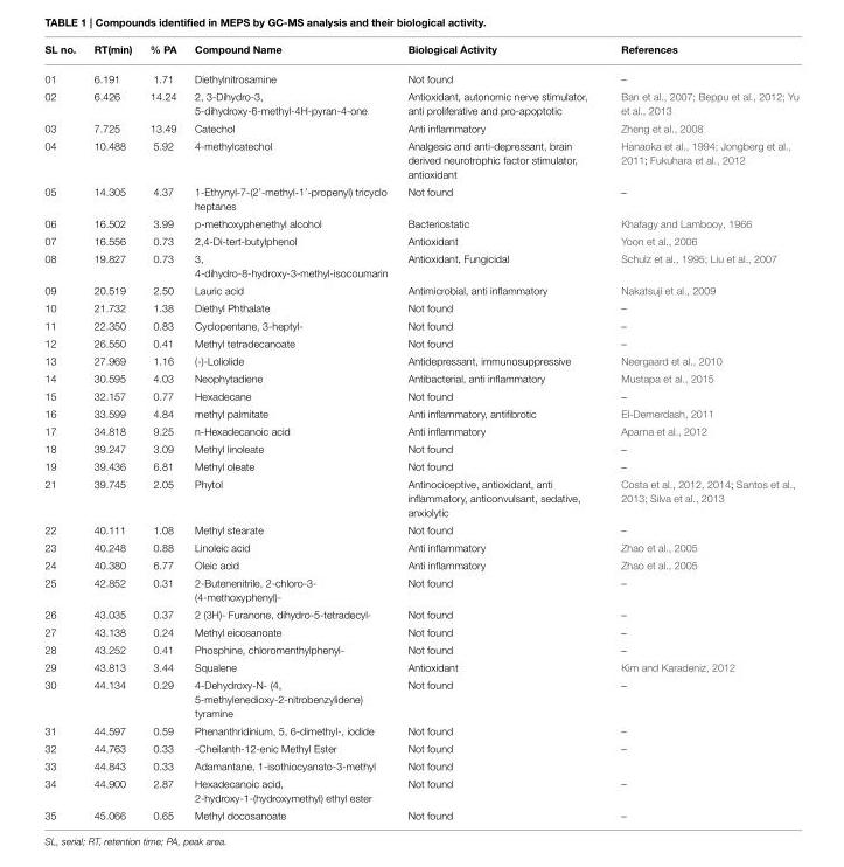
<table><thead><tr><td>SL no.</td><td>RT(min)</td><td>% PA</td><td>Compound Name</td><td>Biological Activity</td><td>References</td></tr></thead><tbody><tr><td>01</td><td>6.191</td><td>1.71</td><td>Diethylnitrosamine</td><td>Not found</td><td>–</td></tr><tr><td>02</td><td>6.426</td><td>14.24</td><td>2, 3-Dihydro-3, 5-dihydroxy-6-methyl-4H-pyran-4-one</td><td>Antioxidant, autonomic nerve stimulator, anti proliferative and pro-apoptotic</td><td>Ban et al., 2007; Beppu et al., 2012; Yu et al., 2013</td></tr><tr><td>03</td><td>7.725</td><td>13.49</td><td>Catechol</td><td>Anti inflammatory</td><td>Zheng et al., 2008</td></tr><tr><td>04</td><td>10.488</td><td>5.92</td><td>4-methylcatechol</td><td>Analgesic and anti-depressant, brain derived neurotrophic factor stimulator, antioxidant</td><td>Hanaoka et al., 1994; Jongberg et al., 2011; Fukuhara et al., 2012</td></tr><tr><td>05</td><td>14.305</td><td>4.37</td><td>1-Ethynyl-7-(2’-methyl-1’-propenyl) tricyclo heptanes</td><td>Not found</td><td>–</td></tr><tr><td>06</td><td>16.502</td><td>3.99</td><td>p-methoxyphenethyl alcohol</td><td>Bacteriostatic</td><td>Khafagy and Lambooy, 1966</td></tr><tr><td>07</td><td>16.556</td><td>0.73</td><td>2,4-Di-tert-butylphenol</td><td>Antioxidant</td><td>Yoon et al., 2006</td></tr><tr><td>08</td><td>19.827</td><td>0.73</td><td>3, 4-dihydro-8-hydroxy-3-methyl-isocoumarin</td><td>Antioxidant, Fungicidal</td><td>Schulz et al., 1995; Liu et al., 2007</td></tr><tr><td>09</td><td>20.519</td><td>2.50</td><td>Lauric acid</td><td>Antimicrobial, anti inflammatory</td><td>Nakatsuji et al., 2009</td></tr><tr><td>10</td><td>21.732</td><td>1.38</td><td>Diethyl Phthalate</td><td>Not found</td><td>–</td></tr><tr><td>11</td><td>22.350</td><td>0.83</td><td>Cyclopentane, 3-heptyl-</td><td>Not found</td><td>–</td></tr><tr><td>12</td><td>26.550</td><td>0.41</td><td>Methyl tetradecanoate</td><td>Not found</td><td>–</td></tr><tr><td>13</td><td>27.969</td><td>1.16</td><td>(-)-Loliolide</td><td>Antidepressant, immunosuppressive</td><td>Neergaard et al., 2010</td></tr><tr><td>14</td><td>30.595</td><td>4.03</td><td>Neophytadiene</td><td>Antibacterial, anti inflammatory</td><td>Mustapa et al., 2015</td></tr><tr><td>15</td><td>32.157</td><td>0.77</td><td>Hexadecane</td><td>Not found</td><td>–</td></tr><tr><td>16</td><td>33.599</td><td>4.84</td><td>methyl palmitate</td><td>Anti inflammatory, antifibrotic</td><td>El-Demerdash, 2011</td></tr><tr><td>17</td><td>34.818</td><td>9.25</td><td>n-Hexadecanoic acid</td><td>Anti inflammatory</td><td>Aparna et al., 2012</td></tr><tr><td>18</td><td>39.247</td><td>3.09</td><td>Methyl linoleate</td><td>Not found</td><td>–</td></tr><tr><td>19</td><td>39.436</td><td>6.81</td><td>Methyl oleate</td><td>Not found</td><td>–</td></tr><tr><td>21</td><td>39.745</td><td>2.05</td><td>Phytol</td><td>Antinociceptive, antioxidant, anti inflammatory, anticonvulsant, sedative, anxiolytic</td><td>Costa et al., 2012, 2014; Santos et al., 2013; Silva et al., 2013</td></tr><tr><td>22</td><td>40.111</td><td>1.08</td><td>Methyl stearate</td><td>Not found</td><td>–</td></tr><tr><td>23</td><td>40.248</td><td>0.88</td><td>Linoleic acid</td><td>Anti inflammatory</td><td>Zhao et al., 2005</td></tr><tr><td>24</td><td>40.380</td><td>6.77</td><td>Oleic acid</td><td>Anti inflammatory</td><td>Zhao et al., 2005</td></tr><tr><td>25</td><td>42.852</td><td>0.31</td><td>2-Butenenitrile, 2-chloro-3- (4-methoxyphenyl)-</td><td>Not found</td><td>–</td></tr><tr><td>26</td><td>43.035</td><td>0.37</td><td>2 (3H)- Furanone, dihydro-5-tetradecyl-</td><td>Not found</td><td>–</td></tr><tr><td>27</td><td>43.138</td><td>0.24</td><td>Methyl eicosanoate</td><td>Not found</td><td>–</td></tr><tr><td>28</td><td>43.252</td><td>0.41</td><td>Phosphine, chloromenthylphenyl-</td><td>Not found</td><td>–</td></tr><tr><td>29</td><td>43.813</td><td>3.44</td><td>Squalene</td><td>Antioxidant</td><td>Kim and Karadeniz, 2012</td></tr><tr><td>30</td><td>44.134</td><td>0.29</td><td>4-Dehydroxy-N- (4, 5-methylenedioxy-2-nitrobenzylidene) tyramine</td><td>Not found</td><td>–</td></tr><tr><td>31</td><td>44.597</td><td>0.59</td><td>Phenanthridinium, 5, 6-dimethyl-, iodide</td><td>Not found</td><td>–</td></tr><tr><td>32</td><td>44.763</td><td>0.33</td><td>-Cheilanth-12-enic Methyl Ester</td><td>Not found</td><td>–</td></tr><tr><td>33</td><td>44.843</td><td>0.33</td><td>Adamantane, 1-isothiocyanato-3-methyl</td><td>Not found</td><td></td></tr><tr><td>34</td><td>44.900</td><td>2.87</td><td>Hexadecanoic acid, 2-hydroxy-1-(hydroxymethyl) ethyl ester</td><td>Not found</td><td>–</td></tr><tr><td>35</td><td>45.066</td><td>0.65</td><td>Methyl docosanoate</td><td>Not found</td><td>–</td></tr></tbody></table>